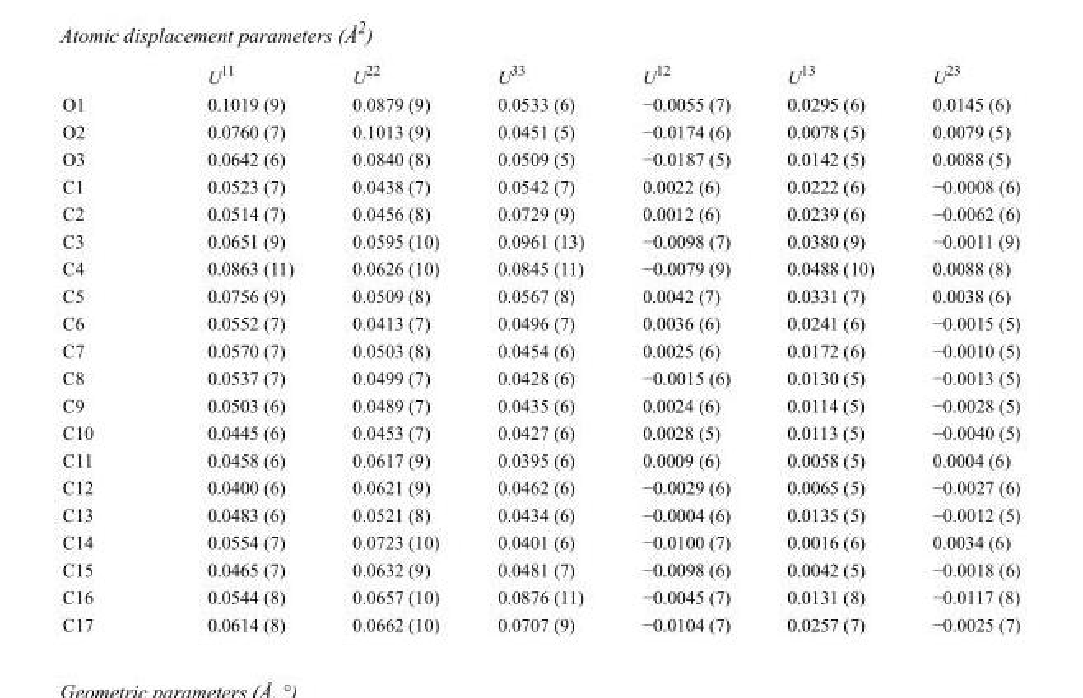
<table><thead><tr><td></td><td>U<sup>11</sup></td><td>U<sup>22</sup></td><td>U<sup>33</sup></td><td>U<sup>12</sup></td><td>U<sup>13</sup></td><td>U<sup>23</sup></td></tr></thead><tbody><tr><td>O1</td><td>0.1019 (9)</td><td>0.0879 (9)</td><td>0.0533 (6)</td><td>−0.0055 (7)</td><td>0.0295 (6)</td><td>0.0145 (6)</td></tr><tr><td>O2</td><td>0.0760 (7)</td><td>0.1013 (9)</td><td>0.0451 (5)</td><td>−0.0174 (6)</td><td>0.0078 (5)</td><td>0.0079 (5)</td></tr><tr><td>O3</td><td>0.0642 (6)</td><td>0.0840 (8)</td><td>0.0509 (5)</td><td>−0.0187 (5)</td><td>0.0142 (5)</td><td>0.0088 (5)</td></tr><tr><td>C1</td><td>0.0523 (7)</td><td>0.0438 (7)</td><td>0.0542 (7)</td><td>0.0022 (6)</td><td>0.0222 (6)</td><td>−0.0008 (6)</td></tr><tr><td>C2</td><td>0.0514 (7)</td><td>0.0456 (8)</td><td>0.0729 (9)</td><td>0.0012 (6)</td><td>0.0239 (6)</td><td>−0.0062 (6)</td></tr><tr><td>C3</td><td>0.0651 (9)</td><td>0.0595 (10)</td><td>0.0961 (13)</td><td>−0.0098 (7)</td><td>0.0380 (9)</td><td>−0.0011 (9)</td></tr><tr><td>C4</td><td>0.0863 (11)</td><td>0.0626 (10)</td><td>0.0845 (11)</td><td>−0.0079 (9)</td><td>0.0488 (10)</td><td>0.0088 (8)</td></tr><tr><td>C5</td><td>0.0756 (9)</td><td>0.0509 (8)</td><td>0.0567 (8)</td><td>0.0042 (7)</td><td>0.0331 (7)</td><td>0.0038 (6)</td></tr><tr><td>C6</td><td>0.0552 (7)</td><td>0.0413 (7)</td><td>0.0496 (7)</td><td>0.0036 (6)</td><td>0.0241 (6)</td><td>−0.0015 (5)</td></tr><tr><td>C7</td><td>0.0570 (7)</td><td>0.0503 (8)</td><td>0.0454 (6)</td><td>0.0025 (6)</td><td>0.0172 (6)</td><td>−0.0010 (5)</td></tr><tr><td>C8</td><td>0.0537 (7)</td><td>0.0499 (7)</td><td>0.0428 (6)</td><td>−0.0015 (6)</td><td>0.0130 (5)</td><td>−0.0013 (5)</td></tr><tr><td>C9</td><td>0.0503 (6)</td><td>0.0489 (7)</td><td>0.0435 (6)</td><td>0.0024 (6)</td><td>0.0114 (5)</td><td>−0.0028 (5)</td></tr><tr><td>C10</td><td>0.0445 (6)</td><td>0.0453 (7)</td><td>0.0427 (6)</td><td>0.0028 (5)</td><td>0.0113 (5)</td><td>−0.0040 (5)</td></tr><tr><td>C11</td><td>0.0458 (6)</td><td>0.0617 (9)</td><td>0.0395 (6)</td><td>0.0009 (6)</td><td>0.0058 (5)</td><td>0.0004 (6)</td></tr><tr><td>C12</td><td>0.0400 (6)</td><td>0.0621 (9)</td><td>0.0462 (6)</td><td>−0.0029 (6)</td><td>0.0065 (5)</td><td>−0.0027 (6)</td></tr><tr><td>C13</td><td>0.0483 (6)</td><td>0.0521 (8)</td><td>0.0434 (6)</td><td>−0.0004 (6)</td><td>0.0135 (5)</td><td>−0.0012 (5)</td></tr><tr><td>C14</td><td>0.0554 (7)</td><td>0.0723 (10)</td><td>0.0401 (6)</td><td>−0.0100 (7)</td><td>0.0016 (6)</td><td>0.0034 (6)</td></tr><tr><td>C15</td><td>0.0465 (7)</td><td>0.0632 (9)</td><td>0.0481 (7)</td><td>−0.0098 (6)</td><td>0.0042 (5)</td><td>−0.0018 (6)</td></tr><tr><td>C16</td><td>0.0544 (8)</td><td>0.0657 (10)</td><td>0.0876 (11)</td><td>−0.0045 (7)</td><td>0.0131 (8)</td><td>−0.0117 (8)</td></tr><tr><td>C17</td><td>0.0614 (8)</td><td>0.0662 (10)</td><td>0.0707 (9)</td><td>−0.0104 (7)</td><td>0.0257 (7)</td><td>−0.0025 (7)</td></tr></tbody></table>